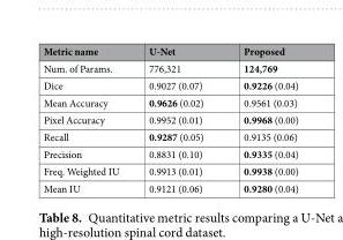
<table><thead><tr><td>Metric name</td><td>U-Net</td><td>Proposed</td></tr></thead><tbody><tr><td>Num. of Params.</td><td>776,321</td><td>124,769</td></tr><tr><td>Dice</td><td>0.9027 (0.07)</td><td>0.9226 (0.04)</td></tr><tr><td>Mean Accuracy</td><td>0.9626 (0.02)</td><td>0.9561 (0.03)</td></tr><tr><td>Pixel Accuracy</td><td>0.9952 (0.01)</td><td>0.9968 (0.00)</td></tr><tr><td>Recall</td><td>0.9287 (0.05)</td><td>0.9135 (0.06)</td></tr><tr><td>Precision</td><td>0.8831 (0.10)</td><td>0.9335 (0.04)</td></tr><tr><td>Freq. Weighted IU</td><td>0.9913 (0.01)</td><td>0.9938 (0.00)</td></tr><tr><td>Mean IU</td><td>0.9121 (0.06)</td><td>0.9280 (0.04)</td></tr></tbody></table>